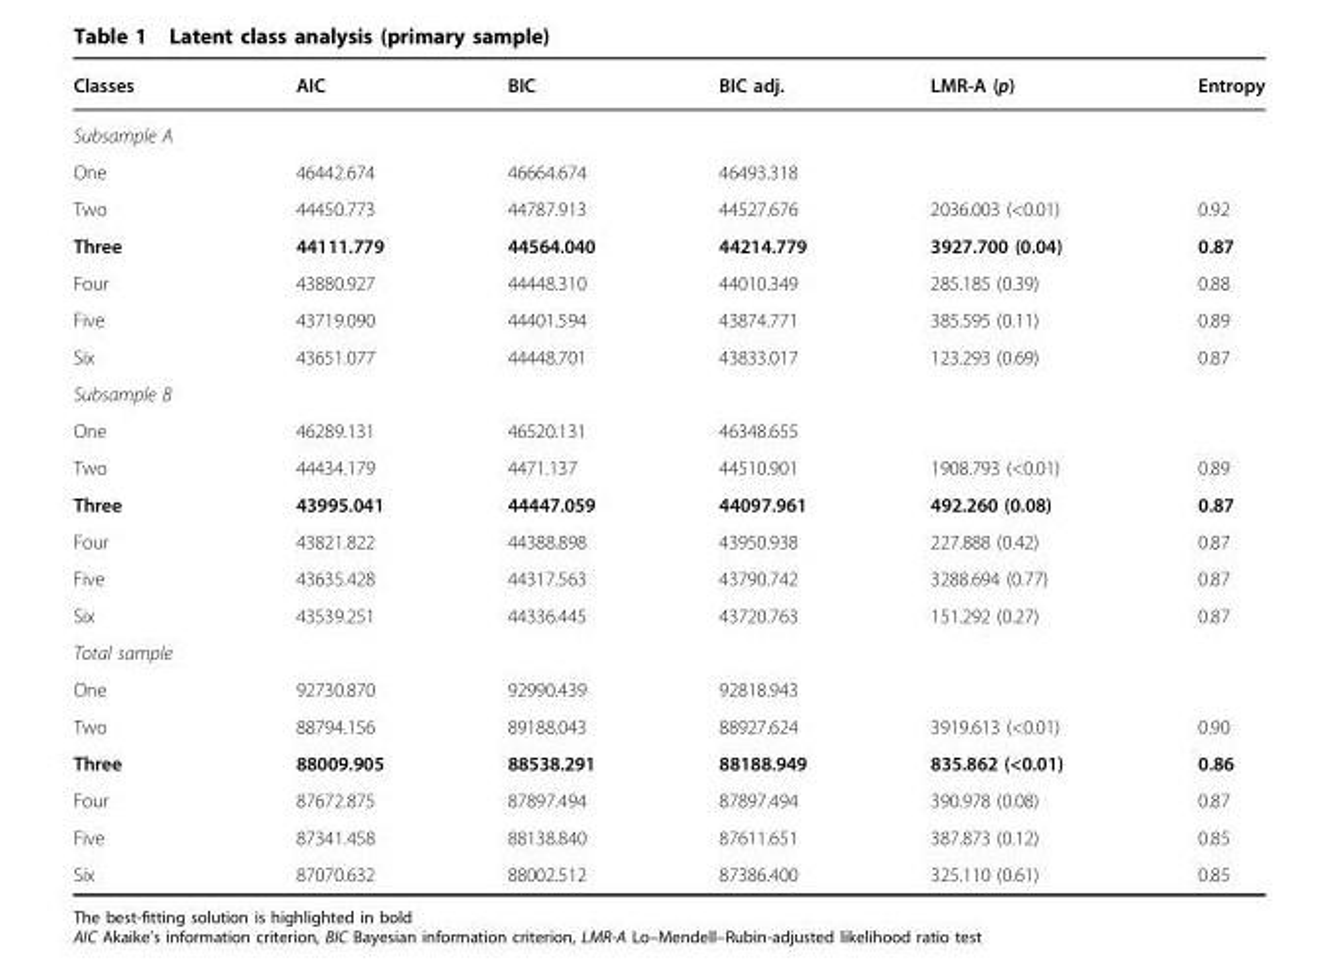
<table><thead><tr><td>Classes</td><td>AIC</td><td>BIC</td><td>BIC adj.</td><td>LMR-A (p)</td><td>Entropy</td></tr></thead><tbody><tr><td colspan="6">Subsample A</td></tr><tr><td>One</td><td>46442.674</td><td>46664.674</td><td>46493.318</td><td></td><td></td></tr><tr><td>Two</td><td>44450.773</td><td>44787.913</td><td>44527.676</td><td>2036.003 (&lt;0.01)</td><td>0.92</td></tr><tr><td>Three</td><td>44111.779</td><td>44564.040</td><td>44214.779</td><td>3927.700 (0.04)</td><td>0.87</td></tr><tr><td>Four</td><td>43880.927</td><td>44448.310</td><td>44010.349</td><td>285.185 (0.39)</td><td>0.88</td></tr><tr><td>Five</td><td>43719.090</td><td>44401.594</td><td>43874.771</td><td>385.595 (0.11)</td><td>0.89</td></tr><tr><td>Six</td><td>43651.077</td><td>44448.701</td><td>43833.017</td><td>123.293 (0.69)</td><td>0.87</td></tr><tr><td colspan="6">Subsample B</td></tr><tr><td>One</td><td>46289.131</td><td>46520.131</td><td>46348.655</td><td></td><td></td></tr><tr><td>Two</td><td>44434.179</td><td>4471.137</td><td>44510.901</td><td>1908.793 (&lt;0.01)</td><td>0.89</td></tr><tr><td>Three</td><td>43995.041</td><td>44447.059</td><td>44097.961</td><td>492.260 (0.08)</td><td>0.87</td></tr><tr><td>Four</td><td>43821.822</td><td>44388.898</td><td>43950.938</td><td>227.888 (0.42)</td><td>0.87</td></tr><tr><td>Five</td><td>43635.428</td><td>44317.563</td><td>43790.742</td><td>3288.694 (0.77)</td><td>0.87</td></tr><tr><td>Six</td><td>43539.251</td><td>44336.445</td><td>43720.763</td><td>151.292 (0.27)</td><td>0.87</td></tr><tr><td colspan="6">Total sample</td></tr><tr><td>One</td><td>92730.870</td><td>92990.439</td><td>92818.943</td><td></td><td></td></tr><tr><td>Two</td><td>88794.156</td><td>89188.043</td><td>88927.624</td><td>3919.613 (&lt;0.01)</td><td>0.90</td></tr><tr><td>Three</td><td>88009.905</td><td>88538.291</td><td>88188.949</td><td>835.862 (&lt;0.01)</td><td>0.86</td></tr><tr><td>Four</td><td>87672.875</td><td>87897.494</td><td>87897.494</td><td>390.978 (0.08)</td><td>0.87</td></tr><tr><td>Five</td><td>87341.458</td><td>88138.840</td><td>87611.651</td><td>387.873 (0.12)</td><td>0.85</td></tr><tr><td>Six</td><td>87070.632</td><td>88002.512</td><td>87386.400</td><td>325.110 (0.61)</td><td>0.85</td></tr></tbody></table>